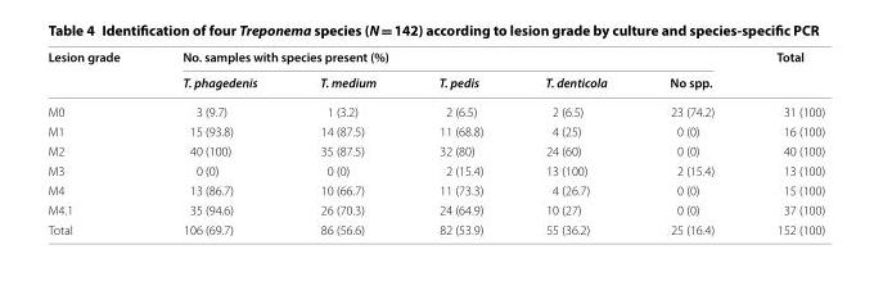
<table><thead><tr><td rowspan="2">Lesion grade</td><td colspan="5">No. samples with species present (%)</td><td rowspan="2">Total</td></tr><tr><td>T. phagedenis</td><td>T. medium</td><td>T. pedis</td><td>T. denticola</td><td>No spp.</td></tr></thead><tbody><tr><td>M0</td><td>3 (9.7)</td><td>1 (3.2)</td><td>2 (6.5)</td><td>2 (6.5)</td><td>23 (74.2)</td><td>31 (100)</td></tr><tr><td>M1</td><td>15 (93.8)</td><td>14 (87.5)</td><td>11 (68.8)</td><td>4 (25)</td><td>0 (0)</td><td>16 (100)</td></tr><tr><td>M2</td><td>40 (100)</td><td>35 (87.5)</td><td>32 (80)</td><td>24 (60)</td><td>0 (0)</td><td>40 (100)</td></tr><tr><td>M3</td><td>0 (0)</td><td>0 (0)</td><td>2 (15.4)</td><td>13 (100)</td><td>2 (15.4)</td><td>13 (100)</td></tr><tr><td>M4</td><td>13 (86.7)</td><td>10 (66.7)</td><td>11 (73.3)</td><td>4 (26.7)</td><td>0 (0)</td><td>15 (100)</td></tr><tr><td>M4.1</td><td>35 (94.6)</td><td>26 (70.3)</td><td>24 (64.9)</td><td>10 (27)</td><td>0 (0)</td><td>37 (100)</td></tr><tr><td>Total</td><td>106 (69.7)</td><td>86 (56.6)</td><td>82 (53.9)</td><td>55 (36.2)</td><td>25 (16.4)</td><td>152 (100)</td></tr></tbody></table>